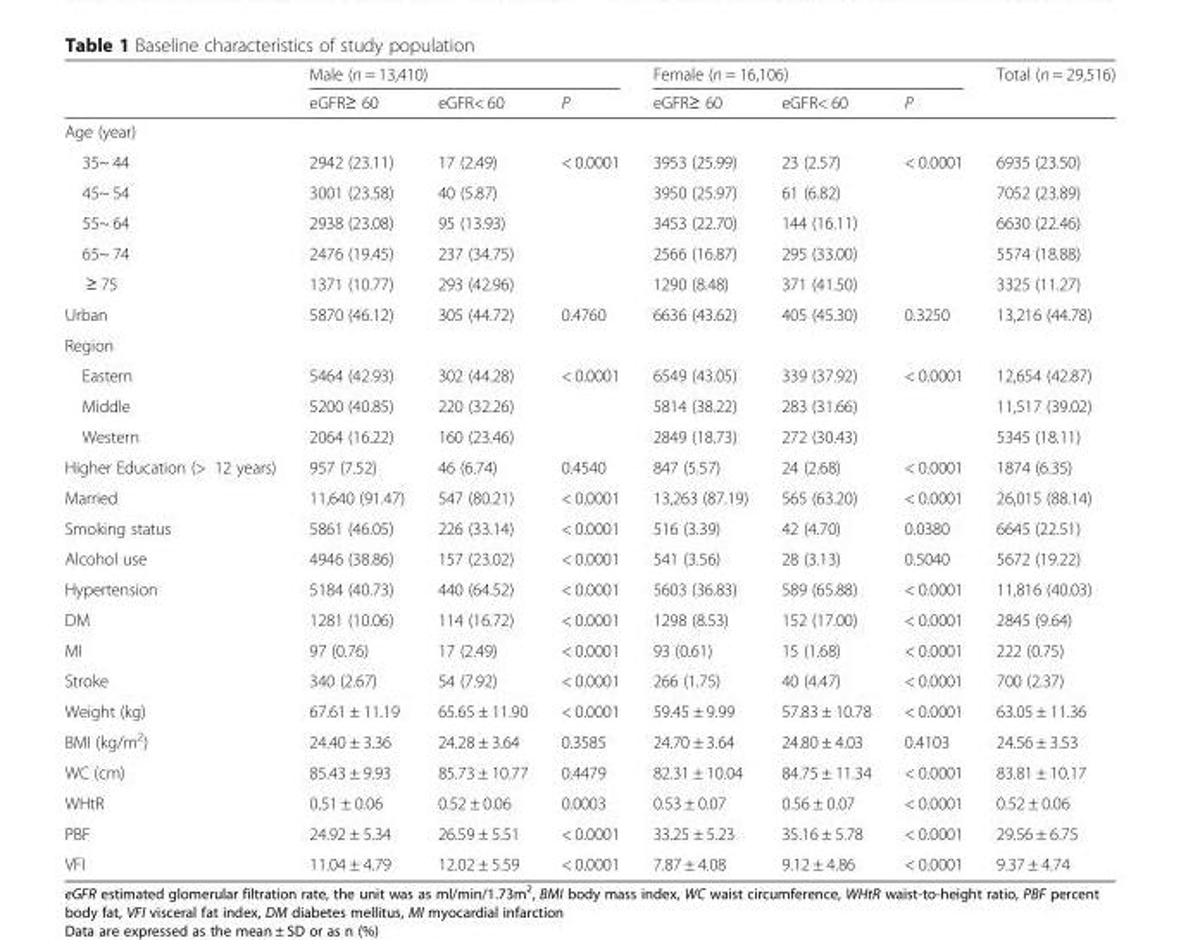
<table><thead><tr><td rowspan="2"></td><td colspan="3">Male (n = 13,410)</td><td colspan="3">Female (n = 16,106)</td><td rowspan="2">Total (n = 29,516)</td></tr><tr><td>eGFR≥ 60</td><td>eGFR&lt; 60</td><td>P</td><td>eGFR≥ 60</td><td>eGFR&lt; 60</td><td>P</td></tr></thead><tbody><tr><td colspan="8">Age (year)</td></tr><tr><td>35~ 44</td><td>2942 (23.11)</td><td>17 (2.49)</td><td>&lt; 0.0001</td><td>3953 (25.99)</td><td>23 (2.57)</td><td>&lt; 0.0001</td><td>6935 (23.50)</td></tr><tr><td>45~ 54</td><td>3001 (23.58)</td><td>40 (5.87)</td><td></td><td>3950 (25.97)</td><td>61 (6.82)</td><td></td><td>7052 (23.89)</td></tr><tr><td>55~ 64</td><td>2938 (23.08)</td><td>95 (13.93)</td><td></td><td>3453 (22.70)</td><td>144 (16.11)</td><td></td><td>6630 (22.46)</td></tr><tr><td>65~ 74</td><td>2476 (19.45)</td><td>237 (34.75)</td><td></td><td>2566 (16.87)</td><td>295 (33.00)</td><td></td><td>5574 (18.88)</td></tr><tr><td>≥ 75</td><td>1371 (10.77)</td><td>293 (42.96)</td><td></td><td>1290 (8.48)</td><td>371 (41.50)</td><td></td><td>3325 (11.27)</td></tr><tr><td>Urban</td><td>5870 (46.12)</td><td>305 (44.72)</td><td>0.4760</td><td>6636 (43.62)</td><td>405 (45.30)</td><td>0.3250</td><td>13,216 (44.78)</td></tr><tr><td colspan="8">Region</td></tr><tr><td>Eastern</td><td>5464 (42.93)</td><td>302 (44.28)</td><td>&lt; 0.0001</td><td>6549 (43.05)</td><td>339 (37.92)</td><td>&lt; 0.0001</td><td>12,654 (42.87)</td></tr><tr><td>Middle</td><td>5200 (40.85)</td><td>220 (32.26)</td><td></td><td>5814 (38.22)</td><td>283 (31.66)</td><td></td><td>11,517 (39.02)</td></tr><tr><td>Western</td><td>2064 (16.22)</td><td>160 (23.46)</td><td></td><td>2849 (18.73)</td><td>272 (30.43)</td><td></td><td>5345 (18.11)</td></tr><tr><td>Higher Education (&gt; 12 years)</td><td>957 (7.52)</td><td>46 (6.74)</td><td>0.4540</td><td>847 (5.57)</td><td>24 (2.68)</td><td>&lt; 0.0001</td><td>1874 (6.35)</td></tr><tr><td>Married</td><td>11,640 (91.47)</td><td>547 (80.21)</td><td>&lt; 0.0001</td><td>13,263 (87.19)</td><td>565 (63.20)</td><td>&lt; 0.0001</td><td>26,015 (88.14)</td></tr><tr><td>Smoking status</td><td>5861 (46.05)</td><td>226 (33.14)</td><td>&lt; 0.0001</td><td>516 (3.39)</td><td>42 (4.70)</td><td>0.0380</td><td>6645 (22.51)</td></tr><tr><td>Alcohol use</td><td>4946 (38.86)</td><td>157 (23.02)</td><td>&lt; 0.0001</td><td>541 (3.56)</td><td>28 (3.13)</td><td>0.5040</td><td>5672 (19.22)</td></tr><tr><td>Hypertension</td><td>5184 (40.73)</td><td>440 (64.52)</td><td>&lt; 0.0001</td><td>5603 (36.83)</td><td>589 (65.88)</td><td>&lt; 0.0001</td><td>11,816 (40.03)</td></tr><tr><td>DM</td><td>1281 (10.06)</td><td>114 (16.72)</td><td>&lt; 0.0001</td><td>1298 (8.53)</td><td>152 (17.00)</td><td>&lt; 0.0001</td><td>2845 (9.64)</td></tr><tr><td>MI</td><td>97 (0.76)</td><td>17 (2.49)</td><td>&lt; 0.0001</td><td>93 (0.61)</td><td>15 (1.68)</td><td>&lt; 0.0001</td><td>222 (0.75)</td></tr><tr><td>Stroke</td><td>340 (2.67)</td><td>54 (7.92)</td><td>&lt; 0.0001</td><td>266 (1.75)</td><td>40 (4.47)</td><td>&lt; 0.0001</td><td>700 (2.37)</td></tr><tr><td>Weight (kg)</td><td>67.61 ± 11.19</td><td>65.65 ± 11.90</td><td>&lt; 0.0001</td><td>59.45 ± 9.99</td><td>57.83 ± 10.78</td><td>&lt; 0.0001</td><td>63.05 ± 11.36</td></tr><tr><td>BMI (kg/m<sup>2</sup>)</td><td>24.40 ± 3.36</td><td>24.28 ± 3.64</td><td>0.3585</td><td>24.70 ± 3.64</td><td>24.80 ± 4.03</td><td>0.4103</td><td>24.56 ± 3.53</td></tr><tr><td>WC (cm)</td><td>85.43 ± 9.93</td><td>85.73 ± 10.77</td><td>0.4479</td><td>82.31 ± 10.04</td><td>84.75 ± 11.34</td><td>&lt; 0.0001</td><td>83.81 ± 10.17</td></tr><tr><td>WHtR</td><td>0.51 ± 0.06</td><td>0.52 ± 0.06</td><td>0.0003</td><td>0.53 ± 0.07</td><td>0.56 ± 0.07</td><td>&lt; 0.0001</td><td>0.52 ± 0.06</td></tr><tr><td>PBF</td><td>24.92 ± 5.34</td><td>26.59 ± 5.51</td><td>&lt; 0.0001</td><td>33.25 ± 5.23</td><td>35.16 ± 5.78</td><td>&lt; 0.0001</td><td>29.56 ± 6.75</td></tr><tr><td>VFI</td><td>11.04 ± 4.79</td><td>12.02 ± 5.59</td><td>&lt; 0.0001</td><td>7.87 ± 4.08</td><td>9.12 ± 4.86</td><td>&lt; 0.0001</td><td>9.37 ± 4.74</td></tr></tbody></table>